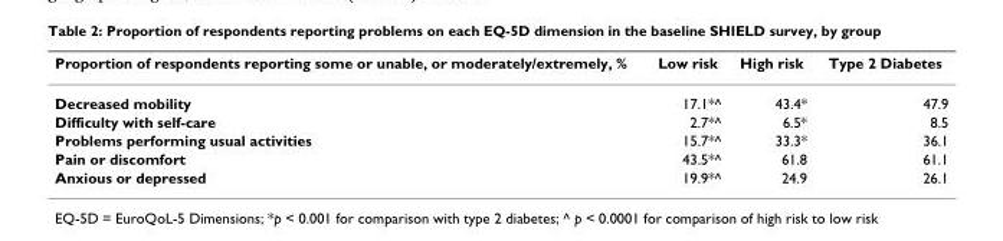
<table><thead><tr><td>Proportion of respondents reporting some or unable, or moderately/extremely, %</td><td>Low risk</td><td>High risk</td><td>Type 2 Diabetes</td></tr></thead><tbody><tr><td>Decreased mobility</td><td>17.1*^</td><td>43.4*</td><td>47.9</td></tr><tr><td>Difficulty with self-care</td><td>2.7*^</td><td>6.5*</td><td>8.5</td></tr><tr><td>Problems performing usual activities</td><td>15.7*^</td><td>33.3*</td><td>36.1</td></tr><tr><td>Pain or discomfort</td><td>43.5*^</td><td>61.8</td><td>61.1</td></tr><tr><td>Anxious or depressed</td><td>19.9*^</td><td>24.9</td><td>26.1</td></tr></tbody></table>